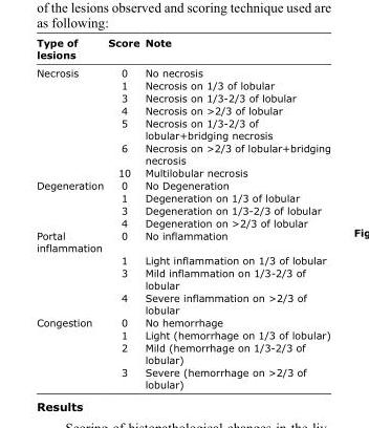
<table><thead><tr><td>Type of lesions</td><td>Score</td><td>Note</td></tr></thead><tbody><tr><td rowspan="7">Necrosis</td><td>0</td><td>No necrosis</td></tr><tr><td>1</td><td>Necrosis on 1/3 of lobular</td></tr><tr><td>3</td><td>Necrosis on 1/3-2/3 of lobular</td></tr><tr><td>4</td><td>Necrosis on &gt;2/3 of lobular</td></tr><tr><td>5</td><td>Necrosis on 1/3-2/3 of lobular+bridging necrosis</td></tr><tr><td>6</td><td>Necrosis on &gt;2/3 of lobular+bridging necrosis</td></tr><tr><td>10</td><td>Multilobular necrosis</td></tr><tr><td rowspan="4">Degeneration</td><td>0</td><td>No Degeneration</td></tr><tr><td>1</td><td>Degeneration on 1/3 of lobular</td></tr><tr><td>3</td><td>Degeneration on 1/3-2/3 of lobular</td></tr><tr><td>4</td><td>Degeneration on &gt;2/3 of lobular</td></tr><tr><td rowspan="4">Portal inflammation</td><td>0</td><td>No inflammation</td></tr><tr><td>1</td><td>Light inflammation on 1/3 of lobular</td></tr><tr><td>3</td><td>Mild inflammation on 1/3-2/3 of lobular</td></tr><tr><td>4</td><td>Severe inflammation on &gt;2/3 of lobular</td></tr><tr><td rowspan="4">Congestion</td><td>0</td><td>No hemorrhage</td></tr><tr><td>1</td><td>Light (hemorrhage on 1/3 of lobular)</td></tr><tr><td>2</td><td>Mild (hemorrhage on 1/3-2/3 of lobular)</td></tr><tr><td>3</td><td>Severe (hemorrhage on &gt;2/3 of lobular)</td></tr></tbody></table>